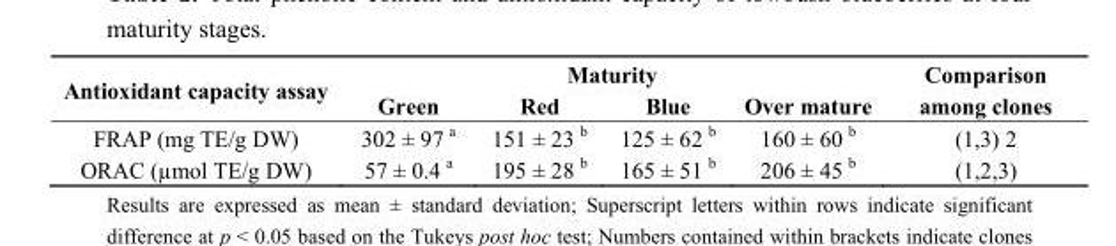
<table><thead><tr><td rowspan="2">Antioxidant capacity assay</td><td colspan="4">Maturity</td><td rowspan="2">Comparison among clones</td></tr><tr><td>Green</td><td>Red</td><td>Blue</td><td>Over mature</td></tr></thead><tbody><tr><td>FRAP (mg TE/g DW)</td><td>302 ± 97 <sup>a</sup></td><td>151 ± 23 <sup>b</sup></td><td>125 ± 62 <sup>b</sup></td><td>160 ± 60 <sup>b</sup></td><td>(1,3) 2</td></tr><tr><td>ORAC (µmol TE/g DW)</td><td>57 ± 0.4 <sup>a</sup></td><td>195 ± 28 <sup>b</sup></td><td>165 ± 51 <sup>b</sup></td><td>206 ± 45 <sup>b</sup></td><td>(1,2,3)</td></tr></tbody></table>